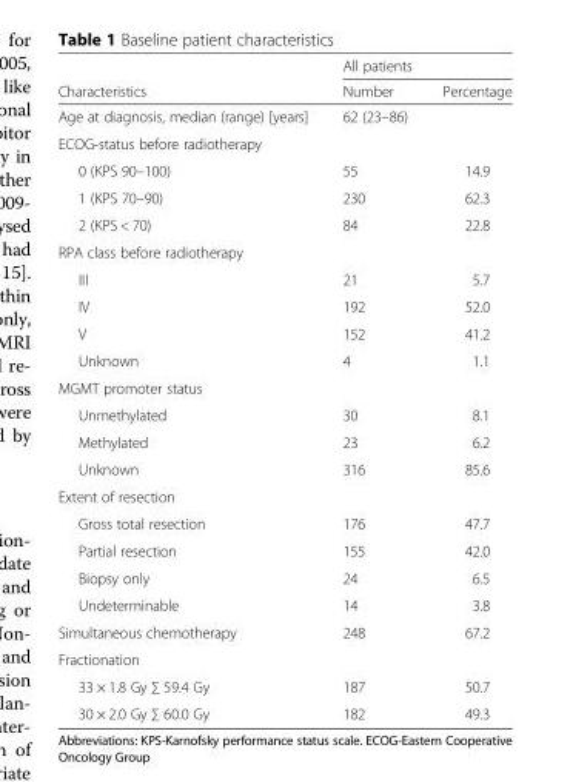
<table><thead><tr><td rowspan="2">Characteristics</td><td colspan="2">All patients</td></tr><tr><td>Number</td><td>Percentage</td></tr></thead><tbody><tr><td>Age at diagnosis, median (range) [years]</td><td>62 (23–86)</td><td></td></tr><tr><td colspan="3">ECOG-status before radiotherapy</td></tr><tr><td>0 (KPS 90–100)</td><td>55</td><td>14.9</td></tr><tr><td>1 (KPS 70–90)</td><td>230</td><td>62.3</td></tr><tr><td>2 (KPS &lt; 70)</td><td>84</td><td>22.8</td></tr><tr><td colspan="3">RPA class before radiotherapy</td></tr><tr><td>III</td><td>21</td><td>5.7</td></tr><tr><td>IV</td><td>192</td><td>52.0</td></tr><tr><td>V</td><td>152</td><td>41.2</td></tr><tr><td>Unknown</td><td>4</td><td>1.1</td></tr><tr><td colspan="3">MGMT promoter status</td></tr><tr><td>Unmethylated</td><td>30</td><td>8.1</td></tr><tr><td>Methylated</td><td>23</td><td>6.2</td></tr><tr><td>Unknown</td><td>316</td><td>85.6</td></tr><tr><td colspan="3">Extent of resection</td></tr><tr><td>Gross total resection</td><td>176</td><td>47.7</td></tr><tr><td>Partial resection</td><td>155</td><td>42.0</td></tr><tr><td>Biopsy only</td><td>24</td><td>6.5</td></tr><tr><td>Undeterminable</td><td>14</td><td>3.8</td></tr><tr><td>Simultaneous chemotherapy</td><td>248</td><td>67.2</td></tr><tr><td colspan="3">Fractionation</td></tr><tr><td>33 × 1.8 Gy ∑ 59.4 Gy</td><td>187</td><td>50.7</td></tr><tr><td>30 × 2.0 Gy ∑ 60.0 Gy</td><td>182</td><td>49.3</td></tr></tbody></table>